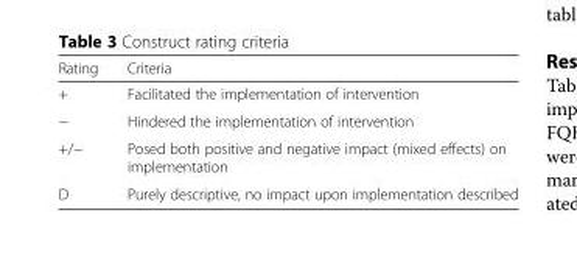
<table><thead><tr><td>Rating</td><td>Criteria</td></tr></thead><tbody><tr><td>+</td><td>Facilitated the implementation of intervention</td></tr><tr><td>−</td><td>Hindered the implementation of intervention</td></tr><tr><td>+/−</td><td>Posed both positive and negative impact (mixed effects) on implementation</td></tr><tr><td>D</td><td>Purely descriptive, no impact upon implementation described</td></tr></tbody></table>